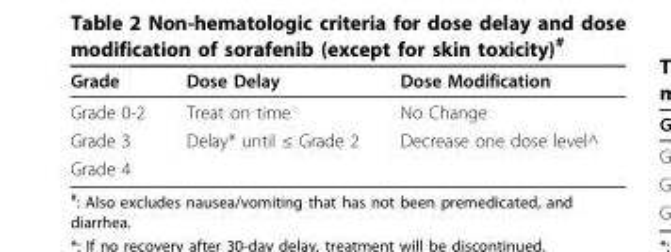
<table><thead><tr><td>Grade</td><td>Dose Delay</td><td>Dose Modification</td></tr></thead><tbody><tr><td>Grade 0-2</td><td>Treat on time</td><td>No Change</td></tr><tr><td>Grade 3</td><td>Delay* until ≤ Grade 2</td><td>Decrease one dose level^</td></tr><tr><td>Grade 4</td><td></td><td></td></tr></tbody></table>